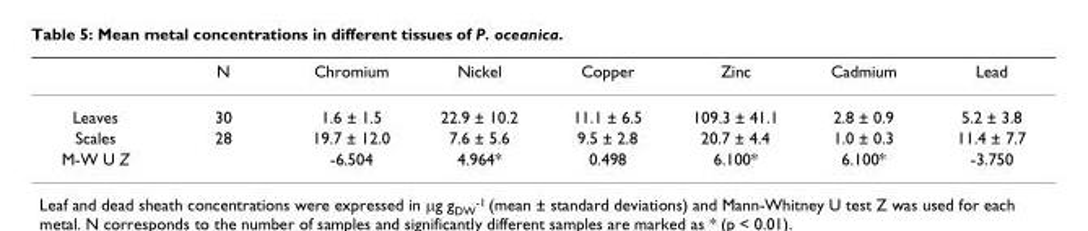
<table><thead><tr><td></td><td>N</td><td>Chromium</td><td>Nickel</td><td>Copper</td><td>Zinc</td><td>Cadmium</td><td>Lead</td></tr></thead><tbody><tr><td>Leaves</td><td>30</td><td>1.6 ± 1.5</td><td>22.9 ± 10.2</td><td>11.1 ± 6.5</td><td>109.3 ± 41.1</td><td>2.8 ± 0.9</td><td>5.2 ± 3.8</td></tr><tr><td>Scales</td><td>28</td><td>19.7 ± 12.0</td><td>7.6 ± 5.6</td><td>9.5 ± 2.8</td><td>20.7 ± 4.4</td><td>1.0 ± 0.3</td><td>11.4 ± 7.7</td></tr><tr><td>M-W U Z</td><td></td><td>-6.504</td><td>4.964*</td><td>0.498</td><td>6.100*</td><td>6.100*</td><td>-3.750</td></tr></tbody></table>